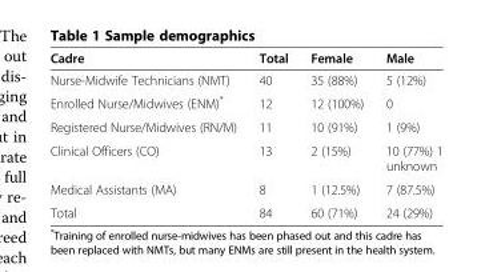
<table><thead><tr><td>Cadre</td><td>Total</td><td>Female</td><td>Male</td></tr></thead><tbody><tr><td>Nurse-Midwife Technicians (NMT)</td><td>40</td><td>35 (88%)</td><td>5 (12%)</td></tr><tr><td>Enrolled Nurse/Midwives (ENM)*</td><td>12</td><td>12 (100%)</td><td>0</td></tr><tr><td>Registered Nurse/Midwives (RN/M)</td><td>11</td><td>10 (91%)</td><td>1 (9%)</td></tr><tr><td>Clinical Officers (CO)</td><td>13</td><td>2 (15%)</td><td>10 (77%) 1 unknown</td></tr><tr><td>Medical Assistants (MA)</td><td>8</td><td>1 (12.5%)</td><td>7 (87.5%)</td></tr><tr><td>Total</td><td>84</td><td>60 (71%)</td><td>24 (29%)</td></tr></tbody></table>